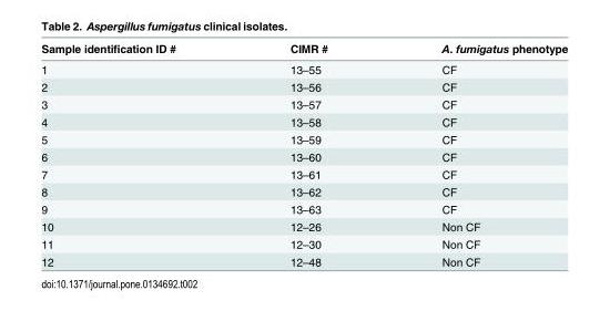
<table><thead><tr><td>Sample identification ID #</td><td>CIMR #</td><td>A. fumigatus phenotype</td></tr></thead><tbody><tr><td>1</td><td>13–55</td><td>CF</td></tr><tr><td>2</td><td>13–56</td><td>CF</td></tr><tr><td>3</td><td>13–57</td><td>CF</td></tr><tr><td>4</td><td>13–58</td><td>CF</td></tr><tr><td>5</td><td>13–59</td><td>CF</td></tr><tr><td>6</td><td>13–60</td><td>CF</td></tr><tr><td>7</td><td>13–61</td><td>CF</td></tr><tr><td>8</td><td>13–62</td><td>CF</td></tr><tr><td>9</td><td>13–63</td><td>CF</td></tr><tr><td>10</td><td>12–26</td><td>Non CF</td></tr><tr><td>11</td><td>12–30</td><td>Non CF</td></tr><tr><td>12</td><td>12–48</td><td>Non CF</td></tr></tbody></table>